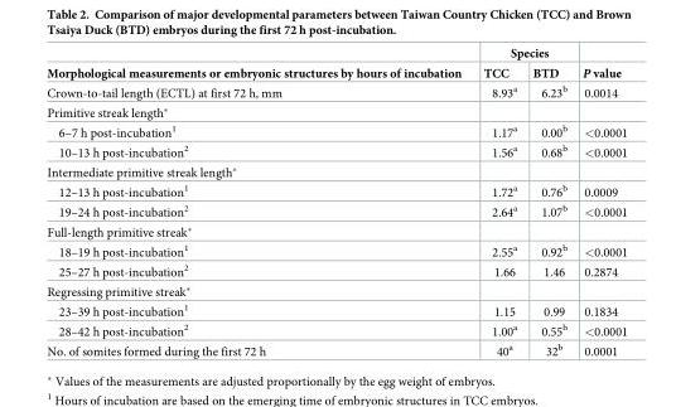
<table><thead><tr><td rowspan="2">Morphological measurements or embryonic structures by hours of incubation</td><td colspan="2">Species</td><td rowspan="2">P value</td></tr><tr><td>TCC</td><td>BTD</td></tr></thead><tbody><tr><td>Crown-to-tail length (ECTL) at first 72 h, mm</td><td>8.93<sup>a</sup></td><td>6.23<sup>b</sup></td><td>0.0014</td></tr><tr><td colspan="4">Primitive streak length*</td></tr><tr><td>6–7 h post-incubation<sup>1</sup></td><td>1.17<sup>a</sup></td><td>0.00<sup>b</sup></td><td>&lt;0.0001</td></tr><tr><td>10–13 h post-incubation<sup>2</sup></td><td>1.56<sup>a</sup></td><td>0.68<sup>b</sup></td><td>&lt;0.0001</td></tr><tr><td colspan="4">Intermediate primitive streak length*</td></tr><tr><td>12–13 h post-incubation<sup>1</sup></td><td>1.72<sup>a</sup></td><td>0.76<sup>b</sup></td><td>0.0009</td></tr><tr><td>19–24 h post-incubation<sup>2</sup></td><td>2.64<sup>a</sup></td><td>1.07<sup>b</sup></td><td>&lt;0.0001</td></tr><tr><td colspan="4">Full-length primitive streak*</td></tr><tr><td>18–19 h post-incubation<sup>1</sup></td><td>2.55<sup>a</sup></td><td>0.92<sup>b</sup></td><td>&lt;0.0001</td></tr><tr><td>25–27 h post-incubation<sup>2</sup></td><td>1.66</td><td>1.46</td><td>0.2874</td></tr><tr><td colspan="4">Regressing primitive streak*</td></tr><tr><td>23–39 h post-incubation<sup>1</sup></td><td>1.15</td><td>0.99</td><td>0.1834</td></tr><tr><td>28–42 h post-incubation<sup>2</sup></td><td>1.00<sup>a</sup></td><td>0.55<sup>b</sup></td><td>&lt;0.0001</td></tr><tr><td>No. of somites formed during the first 72 h</td><td>40<sup>a</sup></td><td>32<sup>b</sup></td><td>0.0001</td></tr></tbody></table>